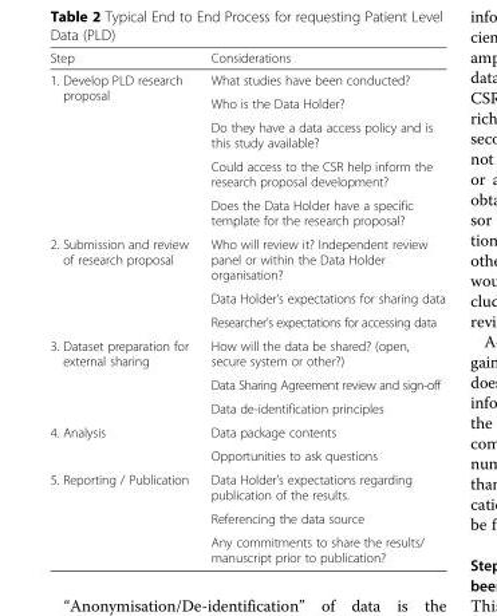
<table><thead><tr><td>Step</td><td>Considerations</td></tr></thead><tbody><tr><td rowspan="5">1. Develop PLD research proposal</td><td>What studies have been conducted?</td></tr><tr><td>Who is the Data Holder?</td></tr><tr><td>Do they have a data access policy and is this study available?</td></tr><tr><td>Could access to the CSR help inform the research proposal development?</td></tr><tr><td>Does the Data Holder have a specific template for the research proposal?</td></tr><tr><td rowspan="3">2. Submission and review of research proposal</td><td>Who will review it? Independent review panel or within the Data Holder organisation?</td></tr><tr><td>Data Holder’s expectations for sharing data</td></tr><tr><td>Researcher’s expectations for accessing data</td></tr><tr><td rowspan="3">3. Dataset preparation for external sharing</td><td>How will the data be shared? (open, secure system or other?)</td></tr><tr><td>Data Sharing Agreement review and sign-off</td></tr><tr><td>Data de-identification principles</td></tr><tr><td rowspan="2">4. Analysis</td><td>Data package contents</td></tr><tr><td>Opportunities to ask questions</td></tr><tr><td rowspan="3">5. Reporting / Publication</td><td>Data Holder’s expectations regarding publication of the results.</td></tr><tr><td>Referencing the data source</td></tr><tr><td>Any commitments to share the results/ manuscript prior to publication?</td></tr></tbody></table>